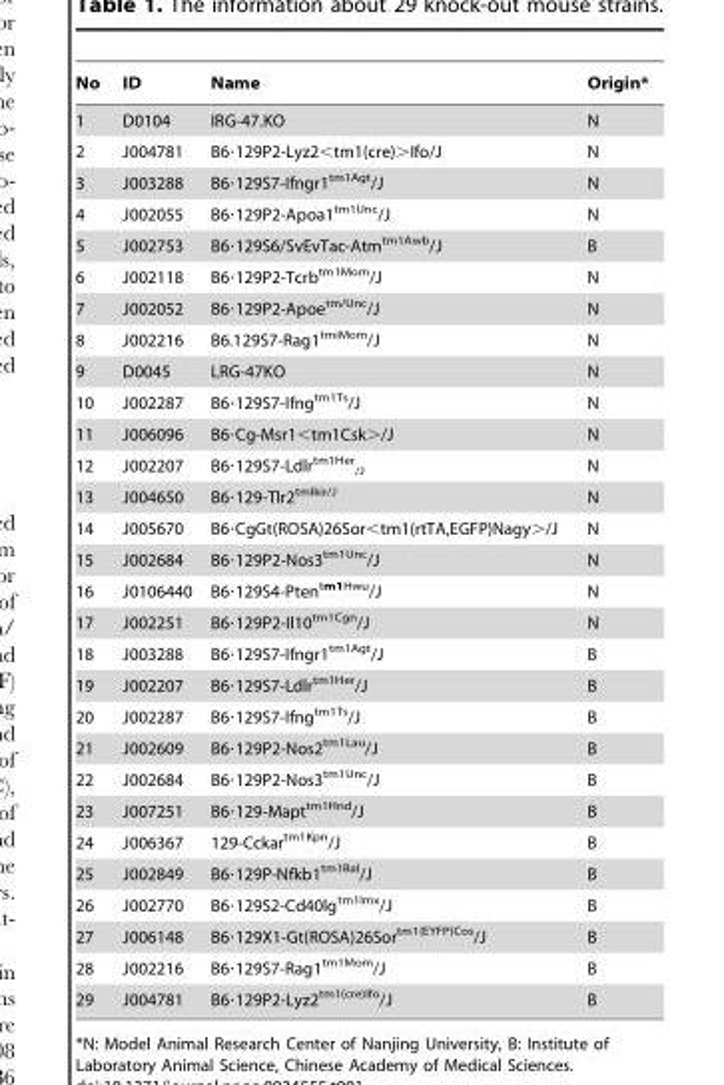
<table><thead><tr><td>No</td><td>ID</td><td>Name</td><td>Origin*</td></tr></thead><tbody><tr><td>1</td><td>D0104</td><td>IRG-47.KO</td><td>N</td></tr><tr><td>2</td><td>J004781</td><td>B6·129P2-Lyz2&lt;tm1(cre)&gt;Ifo/J</td><td>N</td></tr><tr><td>3</td><td>J003288</td><td>B6·129S7-Ifngr1<sup>tm1Agt</sup>/J</td><td>N</td></tr><tr><td>4</td><td>J002055</td><td>B6·129P2-Apoa1<sup>tm1Unc</sup>/J</td><td>N</td></tr><tr><td>5</td><td>J002753</td><td>B6·129S6/SvEvTac-Atm<sup>tm1Awb</sup>/J</td><td>B</td></tr><tr><td>6</td><td>J002118</td><td>B6·129P2-Tcrb<sup>tm1Mom</sup>/J</td><td>N</td></tr><tr><td>7</td><td>J002052</td><td>B6·129P2-Apoe<sup>tm/Unc</sup>/J</td><td>N</td></tr><tr><td>8</td><td>J002216</td><td>B6.129S7-Rag1<sup>tmiMom</sup>/J</td><td>N</td></tr><tr><td>9</td><td>D0045</td><td>LRG-47KO</td><td>N</td></tr><tr><td>10</td><td>J002287</td><td>B6·129S7-Ifng<sup>tm1Ts</sup>/J</td><td>N</td></tr><tr><td>11</td><td>J006096</td><td>B6·Cg-Msr1&lt;tm1Csk&gt;/J</td><td>N</td></tr><tr><td>12</td><td>J002207</td><td>B6·129S7-Ldlr<sup>tm1Her</sup> <sub>/J</sub></td><td>N</td></tr><tr><td>13</td><td>J004650</td><td>B6·129-Tlr2<sup>tmIkir/J</sup></td><td>N</td></tr><tr><td>14</td><td>J005670</td><td>B6·CgGt(ROSA)26Sor&lt;tm1(rtTA,EGFP)Nagy&gt;/J</td><td>N</td></tr><tr><td>15</td><td>J002684</td><td>B6·129P2-Nos3<sup>tm1Unc</sup>/J</td><td>N</td></tr><tr><td>16</td><td>J0106440</td><td>B6·129S4-Pten<sup>tm1Hwu</sup>/J</td><td>N</td></tr><tr><td>17</td><td>J002251</td><td>B6·129P2-Il10<sup>tm1Cgn</sup>/J</td><td>N</td></tr><tr><td>18</td><td>J003288</td><td>B6·129S7-Ifngr1<sup>tm1Agt</sup>/J</td><td>B</td></tr><tr><td>19</td><td>J002207</td><td>B6·129S7-Ldlr<sup>tm1Her</sup>/J</td><td>B</td></tr><tr><td>20</td><td>J002287</td><td>B6·129S7-Ifng<sup>tm1Ts</sup>/J</td><td>B</td></tr><tr><td>21</td><td>J002609</td><td>B6·129P2-Nos2<sup>tm1Lau</sup>/J</td><td>B</td></tr><tr><td>22</td><td>J002684</td><td>B6·129P2-Nos3<sup>tm1Unc</sup>/J</td><td>B</td></tr><tr><td>23</td><td>J007251</td><td>B6·129-Mapt<sup>tm1Hnd</sup>/J</td><td>B</td></tr><tr><td>24</td><td>J006367</td><td>129-Cckar<sup>tm1Kpn</sup>/J</td><td>B</td></tr><tr><td>25</td><td>J002849</td><td>B6·129P-Nfkb1<sup>tm1Bal</sup>/J</td><td>B</td></tr><tr><td>26</td><td>J002770</td><td>B6·129S2-Cd40lg<sup>tm1Imx</sup>/J</td><td>B</td></tr><tr><td>27</td><td>J006148</td><td>B6·129X1-Gt(ROSA)26Sor<sup>tm1(EYFP)Cos</sup>/J</td><td>B</td></tr><tr><td>28</td><td>J002216</td><td>B6·129S7-Rag1<sup>tm1Mom</sup>/J</td><td>B</td></tr><tr><td>29</td><td>J004781</td><td>B6·129P2-Lyz2<sup>tm1(cre)Ifo</sup>/J</td><td>B</td></tr></tbody></table>